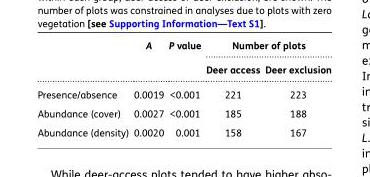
<table><thead><tr><td rowspan="2"></td><td rowspan="2">A</td><td rowspan="2">P value</td><td colspan="2">Number of plots</td></tr><tr><td>Deer access</td><td>Deer exclusion</td></tr></thead><tbody><tr><td>Presence/absence</td><td>0.0019</td><td>&lt;0.001</td><td>221</td><td>223</td></tr><tr><td>Abundance (cover)</td><td>0.0027</td><td>&lt;0.001</td><td>185</td><td>188</td></tr><tr><td>Abundance (density)</td><td>0.0020</td><td>0.001</td><td>158</td><td>167</td></tr></tbody></table>